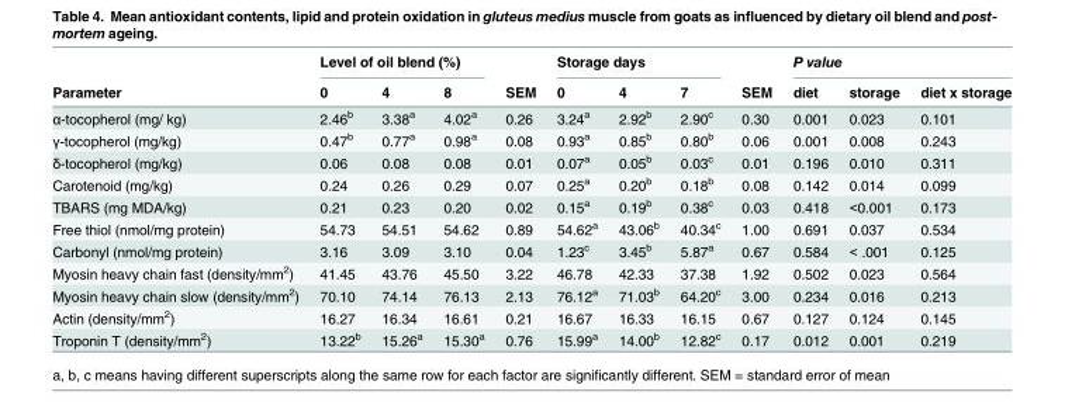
<table><thead><tr><td rowspan="2">Parameter</td><td colspan="3">Level of oil blend (%)</td><td rowspan="2">SEM</td><td colspan="3">Storage days</td><td rowspan="2">SEM</td><td colspan="3">P value</td></tr><tr><td>0</td><td>4</td><td>8</td><td>0</td><td>4</td><td>7</td><td>diet</td><td>storage</td><td>diet x storage</td></tr></thead><tbody><tr><td>α-tocopherol (mg/ kg)</td><td>2.46<sup>b</sup></td><td>3.38<sup>a</sup></td><td>4.02<sup>a</sup></td><td>0.26</td><td>3.24<sup>a</sup></td><td>2.92<sup>b</sup></td><td>2.90<sup>c</sup></td><td>0.30</td><td>0.001</td><td>0.023</td><td>0.101</td></tr><tr><td>γ-tocopherol (mg/kg)</td><td>0.47<sup>b</sup></td><td>0.77<sup>a</sup></td><td>0.98<sup>a</sup></td><td>0.08</td><td>0.93<sup>a</sup></td><td>0.85<sup>b</sup></td><td>0.80<sup>b</sup></td><td>0.06</td><td>0.001</td><td>0.008</td><td>0.243</td></tr><tr><td>δ-tocopherol (mg/kg)</td><td>0.06</td><td>0.08</td><td>0.08</td><td>0.01</td><td>0.07<sup>a</sup></td><td>0.05<sup>b</sup></td><td>0.03<sup>c</sup></td><td>0.01</td><td>0.196</td><td>0.010</td><td>0.311</td></tr><tr><td>Carotenoid (mg/kg)</td><td>0.24</td><td>0.26</td><td>0.29</td><td>0.07</td><td>0.25<sup>a</sup></td><td>0.20<sup>b</sup></td><td>0.18<sup>b</sup></td><td>0.08</td><td>0.142</td><td>0.014</td><td>0.099</td></tr><tr><td>TBARS (mg MDA/kg)</td><td>0.21</td><td>0.23</td><td>0.20</td><td>0.02</td><td>0.15<sup>a</sup></td><td>0.19<sup>b</sup></td><td>0.38<sup>c</sup></td><td>0.03</td><td>0.418</td><td>&lt;0.001</td><td>0.173</td></tr><tr><td>Free thiol (nmol/mg protein)</td><td>54.73</td><td>54.51</td><td>54.62</td><td>0.89</td><td>54.62<sup>a</sup></td><td>43.06<sup>b</sup></td><td>40.34<sup>c</sup></td><td>1.00</td><td>0.691</td><td>0.037</td><td>0.534</td></tr><tr><td>Carbonyl (nmol/mg protein)</td><td>3.16</td><td>3.09</td><td>3.10</td><td>0.04</td><td>1.23<sup>c</sup></td><td>3.45<sup>b</sup></td><td>5.87<sup>a</sup></td><td>0.67</td><td>0.584</td><td>&lt; .001</td><td>0.125</td></tr><tr><td>Myosin heavy chain fast (density/mm<sup>2</sup>)</td><td>41.45</td><td>43.76</td><td>45.50</td><td>3.22</td><td>46.78</td><td>42.33</td><td>37.38</td><td>1.92</td><td>0.502</td><td>0.023</td><td>0.564</td></tr><tr><td>Myosin heavy chain slow (density/mm<sup>2</sup>)</td><td>70.10</td><td>74.14</td><td>76.13</td><td>2.13</td><td>76.12<sup>a</sup></td><td>71.03<sup>b</sup></td><td>64.20<sup>c</sup></td><td>3.00</td><td>0.234</td><td>0.016</td><td>0.213</td></tr><tr><td>Actin (density/mm<sup>2</sup>)</td><td>16.27</td><td>16.34</td><td>16.61</td><td>0.21</td><td>16.67</td><td>16.33</td><td>16.15</td><td>0.67</td><td>0.127</td><td>0.124</td><td>0.145</td></tr><tr><td>Troponin T (density/mm<sup>2</sup>)</td><td>13.22<sup>b</sup></td><td>15.26<sup>a</sup></td><td>15.30<sup>a</sup></td><td>0.76</td><td>15.99<sup>a</sup></td><td>14.00<sup>b</sup></td><td>12.82<sup>c</sup></td><td>0.17</td><td>0.012</td><td>0.001</td><td>0.219</td></tr></tbody></table>